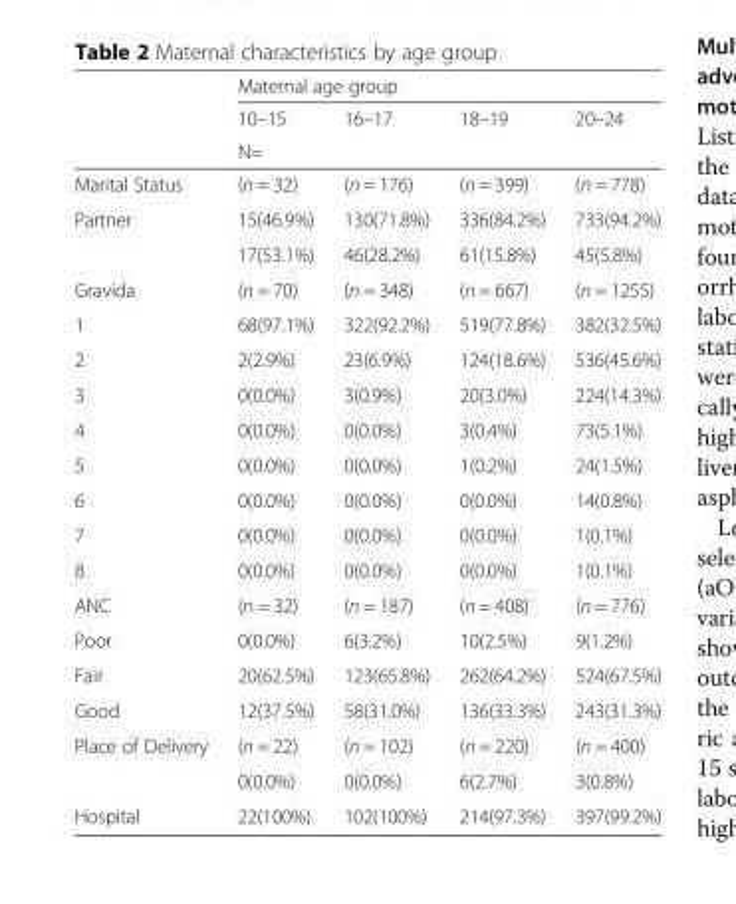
<table><thead><tr><td rowspan="3"></td><td colspan="4">Maternal age group</td></tr><tr><td rowspan="2">10–15 N=</td><td rowspan="2">16–17</td><td rowspan="2">18–19</td><td rowspan="2">20–24</td></tr><tr></tr></thead><tbody><tr><td>Marital Status</td><td>(n = 32)</td><td>(n = 176)</td><td>(n = 399)</td><td>(n = 778)</td></tr><tr><td rowspan="2">Partner</td><td>15(46.9%)</td><td>130(71.8%)</td><td>336(84.2%)</td><td>733(94.2%)</td></tr><tr><td>17(53.1%)</td><td>46(28.2%)</td><td>61(15.8%)</td><td>45(5.8%)</td></tr><tr><td>Gravida</td><td>(n = 70)</td><td>(n = 348)</td><td>(n = 667)</td><td>(n = 1255)</td></tr><tr><td>1</td><td>68(97.1%)</td><td>322(92.2%)</td><td>519(77.8%)</td><td>382(32.5%)</td></tr><tr><td>2</td><td>2(2.9%)</td><td>23(6.9%)</td><td>124(18.6%)</td><td>536(45.6%)</td></tr><tr><td>3</td><td>0(0.0%)</td><td>3(0.9%)</td><td>20(3.0%)</td><td>224(14.3%)</td></tr><tr><td>4</td><td>0(0.0%)</td><td>0(0.0%)</td><td>3(0.4%)</td><td>73(5.1%)</td></tr><tr><td>5</td><td>0(0.0%)</td><td>0(0.0%)</td><td>1(0.2%)</td><td>24(1.5%)</td></tr><tr><td>6</td><td>0(0.0%)</td><td>0(0.0%)</td><td>0(0.0%)</td><td>14(0.8%)</td></tr><tr><td>7</td><td>0(0.0%)</td><td>0(0.0%)</td><td>0(0.0%)</td><td>1(0.1%)</td></tr><tr><td>8</td><td>0(0.0%)</td><td>0(0.0%)</td><td>0(0.0%)</td><td>1(0.1%)</td></tr><tr><td>ANC</td><td>(n = 32)</td><td>(n = 187)</td><td>(n = 408)</td><td>(n = 776)</td></tr><tr><td>Poor</td><td>0(0.0%)</td><td>6(3.2%)</td><td>10(2.5%)</td><td>9(1.2%)</td></tr><tr><td>Fair</td><td>20(62.5%)</td><td>123(65.8%)</td><td>262(64.2%)</td><td>524(67.5%)</td></tr><tr><td>Good</td><td>12(37.5%)</td><td>58(31.0%)</td><td>136(33.3%)</td><td>243(31.3%)</td></tr><tr><td rowspan="2">Place of Delivery</td><td>(n = 22)</td><td>(n = 102)</td><td>(n = 220)</td><td>(n = 400)</td></tr><tr><td>0(0.0%)</td><td>0(0.0%)</td><td>6(2.7%)</td><td>3(0.8%)</td></tr><tr><td>Hospital</td><td>22(100%)</td><td>102(100%)</td><td>214(97.3%)</td><td>397(99.2%)</td></tr></tbody></table>